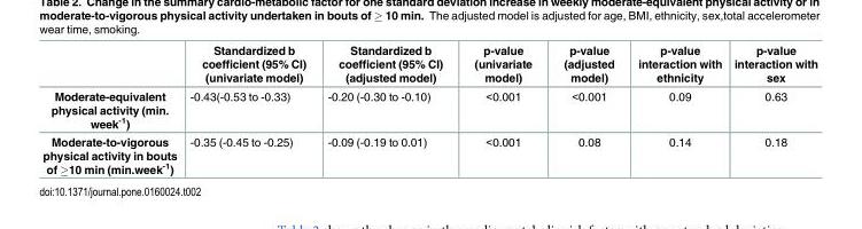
<table><thead><tr><td></td><td>Standardized b coefficient (95% CI) (univariate model)</td><td>Standardized b coefficient (95% CI) (adjusted model)</td><td>p-value (univariate model)</td><td>p-value (adjusted model)</td><td>p-value interaction with ethnicity</td><td>p-value interaction with sex</td></tr></thead><tbody><tr><td>Moderate-equivalent physical activity (min. week<sup>-1</sup>)</td><td>-0.43(-0.53 to -0.33)</td><td>-0.20 (-0.30 to -0.10)</td><td>&lt;0.001</td><td>&lt;0.001</td><td>0.09</td><td>0.63</td></tr><tr><td>Moderate-to-vigorous physical activity in bouts of ≥10 min (min.week<sup>-1</sup>)</td><td>-0.35 (-0.45 to -0.25)</td><td>-0.09 (-0.19 to 0.01)</td><td>&lt;0.001</td><td>0.08</td><td>0.14</td><td>0.18</td></tr></tbody></table>